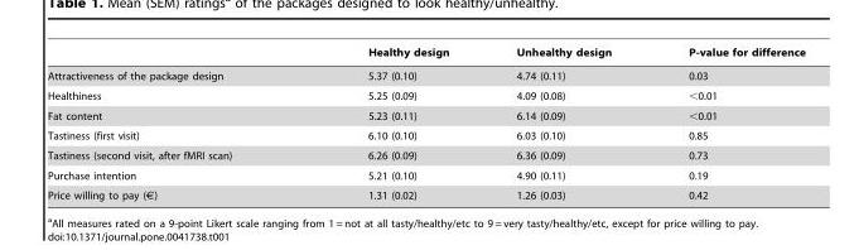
<table><thead><tr><td></td><td>Healthy design</td><td>Unhealthy design</td><td>P-value for difference</td></tr></thead><tbody><tr><td>Attractiveness of the package design</td><td>5.37 (0.10)</td><td>4.74 (0.11)</td><td>0.03</td></tr><tr><td>Healthiness</td><td>5.25 (0.09)</td><td>4.09 (0.08)</td><td>&lt;0.01</td></tr><tr><td>Fat content</td><td>5.23 (0.11)</td><td>6.14 (0.09)</td><td>&lt;0.01</td></tr><tr><td>Tastiness (first visit)</td><td>6.10 (0.10)</td><td>6.03 (0.10)</td><td>0.85</td></tr><tr><td>Tastiness (second visit, after fMRI scan)</td><td>6.26 (0.09)</td><td>6.36 (0.09)</td><td>0.73</td></tr><tr><td>Purchase intention</td><td>5.21 (0.10)</td><td>4.90 (0.11)</td><td>0.19</td></tr><tr><td>Price willing to pay (€)</td><td>1.31 (0.02)</td><td>1.26 (0.03)</td><td>0.42</td></tr></tbody></table>